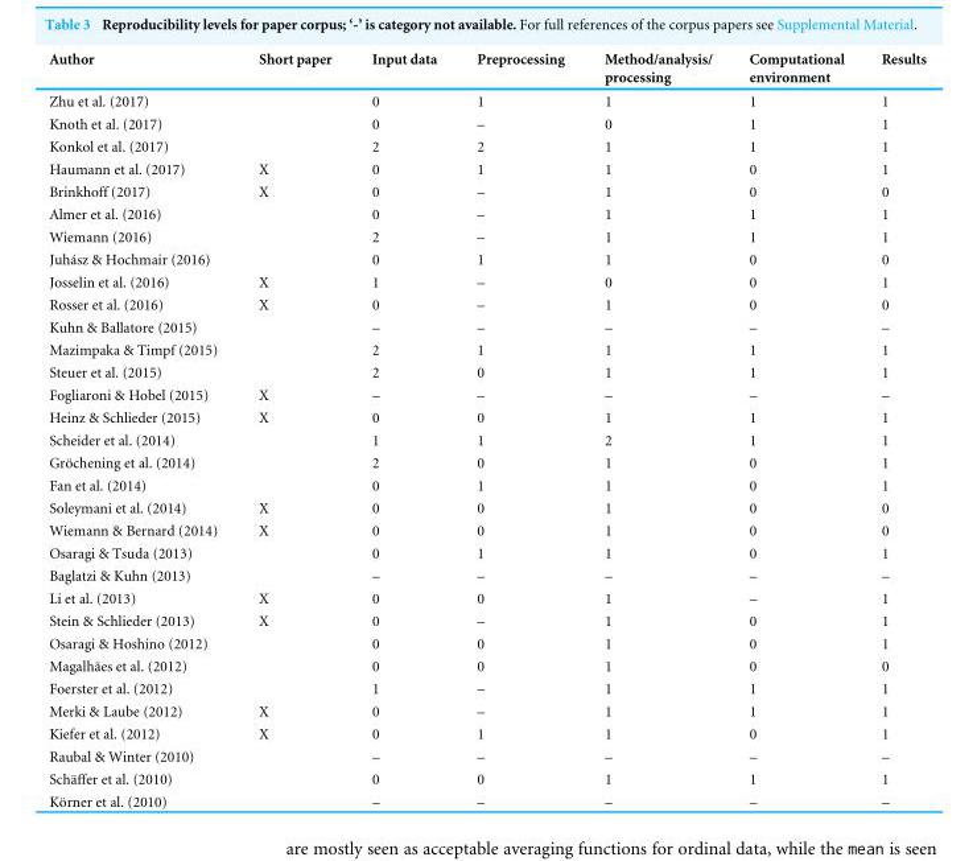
<table><thead><tr><td>Author</td><td>Short paper</td><td>Input data</td><td>Preprocessing</td><td>Method/analysis/ processing</td><td>Computational environment</td><td>Results</td></tr></thead><tbody><tr><td>Zhu et al. (2017)</td><td></td><td>0</td><td>1</td><td>1</td><td>1</td><td>1</td></tr><tr><td>Knoth et al. (2017)</td><td></td><td>0</td><td>–</td><td>0</td><td>1</td><td>1</td></tr><tr><td>Konkol et al. (2017)</td><td></td><td>2</td><td>2</td><td>1</td><td>1</td><td>1</td></tr><tr><td>Haumann et al. (2017)</td><td>X</td><td>0</td><td>1</td><td>1</td><td>0</td><td>1</td></tr><tr><td>Brinkhoff (2017)</td><td>X</td><td>0</td><td>–</td><td>1</td><td>0</td><td>0</td></tr><tr><td>Almer et al. (2016)</td><td></td><td>0</td><td>–</td><td>1</td><td>1</td><td>1</td></tr><tr><td>Wiemann (2016)</td><td></td><td>2</td><td>–</td><td>1</td><td>1</td><td>1</td></tr><tr><td>Juhász &amp; Hochmair (2016)</td><td></td><td>0</td><td>1</td><td>1</td><td>0</td><td>0</td></tr><tr><td>Josselin et al. (2016)</td><td>X</td><td>1</td><td>–</td><td>0</td><td>0</td><td>1</td></tr><tr><td>Rosser et al. (2016)</td><td>X</td><td>0</td><td>–</td><td>1</td><td>0</td><td>0</td></tr><tr><td>Kuhn &amp; Ballatore (2015)</td><td></td><td>–</td><td>–</td><td>–</td><td>–</td><td>–</td></tr><tr><td>Mazimpaka &amp; Timpf (2015)</td><td></td><td>2</td><td>1</td><td>1</td><td>1</td><td>1</td></tr><tr><td>Steuer et al. (2015)</td><td></td><td>2</td><td>0</td><td>1</td><td>1</td><td>1</td></tr><tr><td>Fogliaroni &amp; Hobel (2015)</td><td>X</td><td>–</td><td>–</td><td>–</td><td>–</td><td>–</td></tr><tr><td>Heinz &amp; Schlieder (2015)</td><td>X</td><td>0</td><td>0</td><td>1</td><td>1</td><td>1</td></tr><tr><td>Scheider et al. (2014)</td><td></td><td>1</td><td>1</td><td>2</td><td>1</td><td>1</td></tr><tr><td>Gröchening et al. (2014)</td><td></td><td>2</td><td>0</td><td>1</td><td>0</td><td>1</td></tr><tr><td>Fan et al. (2014)</td><td></td><td>0</td><td>1</td><td>1</td><td>0</td><td>1</td></tr><tr><td>Soleymani et al. (2014)</td><td>X</td><td>0</td><td>0</td><td>1</td><td>0</td><td>0</td></tr><tr><td>Wiemann &amp; Bernard (2014)</td><td>X</td><td>0</td><td>0</td><td>1</td><td>0</td><td>0</td></tr><tr><td>Osaragi &amp; Tsuda (2013)</td><td></td><td>0</td><td>1</td><td>1</td><td>0</td><td>1</td></tr><tr><td>Baglatzi &amp; Kuhn (2013)</td><td></td><td>–</td><td>–</td><td>–</td><td>–</td><td>–</td></tr><tr><td>Li et al. (2013)</td><td>X</td><td>0</td><td>0</td><td>1</td><td>–</td><td>1</td></tr><tr><td>Stein &amp; Schlieder (2013)</td><td>X</td><td>0</td><td>–</td><td>1</td><td>0</td><td>1</td></tr><tr><td>Osaragi &amp; Hoshino (2012)</td><td></td><td>0</td><td>0</td><td>1</td><td>0</td><td>1</td></tr><tr><td>Magalhães et al. (2012)</td><td></td><td>0</td><td>0</td><td>1</td><td>0</td><td>0</td></tr><tr><td>Foerster et al. (2012)</td><td></td><td>1</td><td>–</td><td>1</td><td>1</td><td>1</td></tr><tr><td>Merki &amp; Laube (2012)</td><td>X</td><td>0</td><td>–</td><td>1</td><td>1</td><td>1</td></tr><tr><td>Kiefer et al. (2012)</td><td>X</td><td>0</td><td>1</td><td>1</td><td>0</td><td>1</td></tr><tr><td>Raubal &amp; Winter (2010)</td><td></td><td>–</td><td>–</td><td>–</td><td>–</td><td>–</td></tr><tr><td>Schäffer et al. (2010)</td><td></td><td>0</td><td>0</td><td>1</td><td>1</td><td>1</td></tr><tr><td>Körner et al. (2010)</td><td></td><td>–</td><td>–</td><td>–</td><td>–</td><td>–</td></tr></tbody></table>